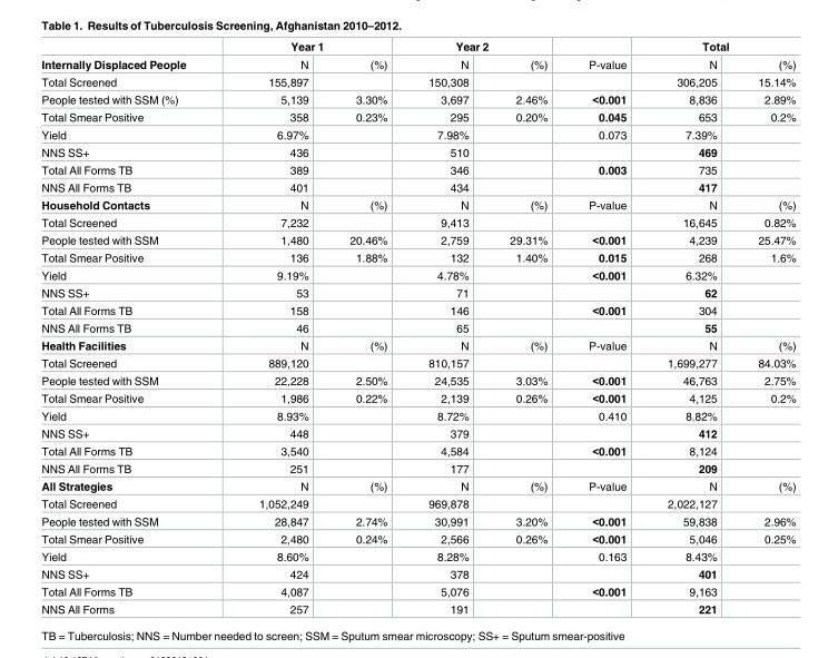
<table><thead><tr><td rowspan="2">Internally Displaced People</td><td colspan="2">Year 1</td><td colspan="2">Year 2</td><td rowspan="2">P-value</td><td colspan="2">Total</td></tr><tr><td>N</td><td>(%)</td><td>N</td><td>(%)</td><td>N</td><td>(%)</td></tr></thead><tbody><tr><td>Total Screened</td><td>155,897</td><td></td><td>150,308</td><td></td><td></td><td>306,205</td><td>15.14%</td></tr><tr><td>People tested with SSM (%)</td><td>5,139</td><td>3.30%</td><td>3,697</td><td>2.46%</td><td>&lt;0.001</td><td>8,836</td><td>2.89%</td></tr><tr><td>Total Smear Positive</td><td>358</td><td>0.23%</td><td>295</td><td>0.20%</td><td>0.045</td><td>653</td><td>0.2%</td></tr><tr><td>Yield</td><td>6.97%</td><td></td><td>7.98%</td><td></td><td>0.073</td><td>7.39%</td><td></td></tr><tr><td>NNS SS+</td><td>436</td><td></td><td>510</td><td></td><td></td><td>469</td><td></td></tr><tr><td>Total All Forms TB</td><td>389</td><td></td><td>346</td><td></td><td>0.003</td><td>735</td><td></td></tr><tr><td>NNS All Forms TB</td><td>401</td><td></td><td>434</td><td></td><td></td><td>417</td><td></td></tr><tr><td>Household Contacts</td><td>N</td><td>(%)</td><td>N</td><td>(%)</td><td>P-value</td><td>N</td><td>(%)</td></tr><tr><td>Total Screened</td><td>7,232</td><td></td><td>9,413</td><td></td><td></td><td>16,645</td><td>0.82%</td></tr><tr><td>People tested with SSM</td><td>1,480</td><td>20.46%</td><td>2,759</td><td>29.31%</td><td>&lt;0.001</td><td>4,239</td><td>25.47%</td></tr><tr><td>Total Smear Positive</td><td>136</td><td>1.88%</td><td>132</td><td>1.40%</td><td>0.015</td><td>268</td><td>1.6%</td></tr><tr><td>Yield</td><td>9.19%</td><td></td><td>4.78%</td><td></td><td>&lt;0.001</td><td>6.32%</td><td></td></tr><tr><td>NNS SS+</td><td>53</td><td></td><td>71</td><td></td><td></td><td>62</td><td></td></tr><tr><td>Total All Forms TB</td><td>158</td><td></td><td>146</td><td></td><td>&lt;0.001</td><td>304</td><td></td></tr><tr><td>NNS All Forms TB</td><td>46</td><td></td><td>65</td><td></td><td></td><td>55</td><td></td></tr><tr><td>Health Facilities</td><td>N</td><td>(%)</td><td>N</td><td>(%)</td><td>P-value</td><td>N</td><td>(%)</td></tr><tr><td>Total Screened</td><td>889,120</td><td></td><td>810,157</td><td></td><td></td><td>1,699,277</td><td>84.03%</td></tr><tr><td>People tested with SSM</td><td>22,228</td><td>2.50%</td><td>24,535</td><td>3.03%</td><td>&lt;0.001</td><td>46,763</td><td>2.75%</td></tr><tr><td>Total Smear Positive</td><td>1,986</td><td>0.22%</td><td>2,139</td><td>0.26%</td><td>&lt;0.001</td><td>4,125</td><td>0.2%</td></tr><tr><td>Yield</td><td>8.93%</td><td></td><td>8.72%</td><td></td><td>0.410</td><td>8.82%</td><td></td></tr><tr><td>NNS SS+</td><td>448</td><td></td><td>379</td><td></td><td></td><td>412</td><td></td></tr><tr><td>Total All Forms TB</td><td>3,540</td><td></td><td>4,584</td><td></td><td>&lt;0.001</td><td>8,124</td><td></td></tr><tr><td>NNS All Forms TB</td><td>251</td><td></td><td>177</td><td></td><td></td><td>209</td><td></td></tr><tr><td>All Strategies</td><td>N</td><td>(%)</td><td>N</td><td>(%)</td><td>P-value</td><td>N</td><td>(%)</td></tr><tr><td>Total Screened</td><td>1,052,249</td><td></td><td>969,878</td><td></td><td></td><td>2,022,127</td><td></td></tr><tr><td>People tested with SSM</td><td>28,847</td><td>2.74%</td><td>30,991</td><td>3.20%</td><td>&lt;0.001</td><td>59,838</td><td>2.96%</td></tr><tr><td>Total Smear Positive</td><td>2,480</td><td>0.24%</td><td>2,566</td><td>0.26%</td><td>&lt;0.001</td><td>5,046</td><td>0.25%</td></tr><tr><td>Yield</td><td>8.60%</td><td></td><td>8.28%</td><td></td><td>0.163</td><td>8.43%</td><td></td></tr><tr><td>NNS SS+</td><td>424</td><td></td><td>378</td><td></td><td></td><td>401</td><td></td></tr><tr><td>Total All Forms TB</td><td>4,087</td><td></td><td>5,076</td><td></td><td>&lt;0.001</td><td>9,163</td><td></td></tr><tr><td>NNS All Forms</td><td>257</td><td></td><td>191</td><td></td><td></td><td>221</td><td></td></tr></tbody></table>